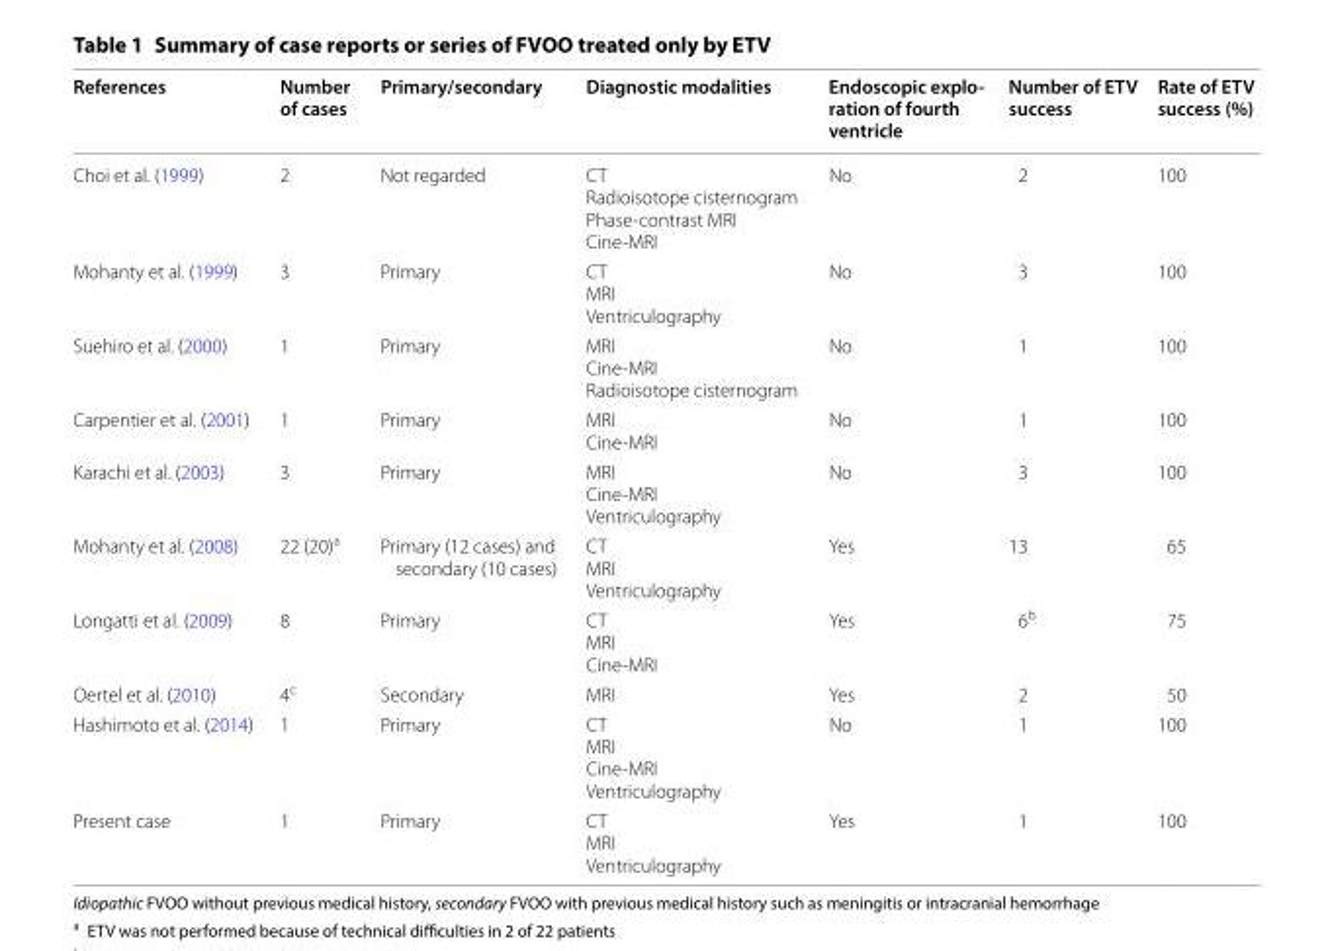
<table><thead><tr><td>References</td><td>Number of cases</td><td>Primary/secondary</td><td>Diagnostic modalities</td><td>Endoscopic explo- ration of fourth ventricle</td><td>Number of ETV success</td><td>Rate of ETV success (%)</td></tr></thead><tbody><tr><td>Choi et al. (1999)</td><td>2</td><td>Not regarded</td><td>CT Radioisotope cisternogram Phase-contrast MRI Cine-MRI</td><td>No</td><td>2</td><td>100</td></tr><tr><td>Mohanty et al. (1999)</td><td>3</td><td>Primary</td><td>CT MRI Ventriculography</td><td>No</td><td>3</td><td>100</td></tr><tr><td>Suehiro et al. (2000)</td><td>1</td><td>Primary</td><td>MRI Cine-MRI Radioisotope cisternogram</td><td>No</td><td>1</td><td>100</td></tr><tr><td>Carpentier et al. (2001)</td><td>1</td><td>Primary</td><td>MRI Cine-MRI</td><td>No</td><td>1</td><td>100</td></tr><tr><td>Karachi et al. (2003)</td><td>3</td><td>Primary</td><td>MRI Cine-MRI Ventriculography</td><td>No</td><td>3</td><td>100</td></tr><tr><td>Mohanty et al. (2008)</td><td>22 (20)<sup>a</sup></td><td>Primary (12 cases) and secondary (10 cases)</td><td>CT MRI Ventriculography</td><td>Yes</td><td>13</td><td>65</td></tr><tr><td>Longatti et al. (2009)</td><td>8</td><td>Primary</td><td>CT MRI Cine-MRI</td><td>Yes</td><td>6<sup>b</sup></td><td>75</td></tr><tr><td>Oertel et al. (2010)</td><td>4<sup>c</sup></td><td>Secondary</td><td>MRI</td><td>Yes</td><td>2</td><td>50</td></tr><tr><td>Hashimoto et al. (2014)</td><td>1</td><td>Primary</td><td>CT MRI Cine-MRI Ventriculography</td><td>No</td><td>1</td><td>100</td></tr><tr><td>Present case</td><td>1</td><td>Primary</td><td>CT MRI Ventriculography</td><td>Yes</td><td>1</td><td>100</td></tr></tbody></table>